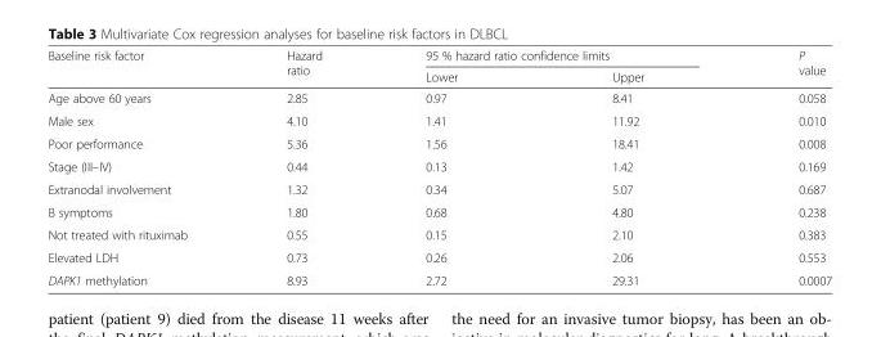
<table><thead><tr><td rowspan="2">Baseline risk factor</td><td rowspan="2">Hazard ratio</td><td colspan="2">95 % hazard ratio confidence limits</td><td rowspan="2">P value</td></tr><tr><td>Lower</td><td>Upper</td></tr></thead><tbody><tr><td>Age above 60 years</td><td>2.85</td><td>0.97</td><td>8.41</td><td>0.058</td></tr><tr><td>Male sex</td><td>4.10</td><td>1.41</td><td>11.92</td><td>0.010</td></tr><tr><td>Poor performance</td><td>5.36</td><td>1.56</td><td>18.41</td><td>0.008</td></tr><tr><td>Stage (III–IV)</td><td>0.44</td><td>0.13</td><td>1.42</td><td>0.169</td></tr><tr><td>Extranodal involvement</td><td>1.32</td><td>0.34</td><td>5.07</td><td>0.687</td></tr><tr><td>B symptoms</td><td>1.80</td><td>0.68</td><td>4.80</td><td>0.238</td></tr><tr><td>Not treated with rituximab</td><td>0.55</td><td>0.15</td><td>2.10</td><td>0.383</td></tr><tr><td>Elevated LDH</td><td>0.73</td><td>0.26</td><td>2.06</td><td>0.553</td></tr><tr><td>DAPK1 methylation</td><td>8.93</td><td>2.72</td><td>29.31</td><td>0.0007</td></tr></tbody></table>